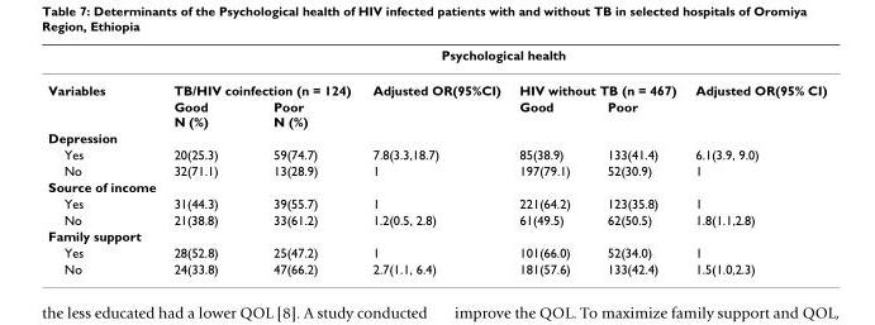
<table><thead><tr><td rowspan="3">Variables</td><td colspan="6">Psychological health</td></tr><tr><td colspan="2">TB/HIV coinfection (n = 124)</td><td rowspan="2">Adjusted OR(95%CI)</td><td colspan="2">HIV without TB (n = 467)</td><td rowspan="2">Adjusted OR(95% CI)</td></tr><tr><td>Good N (%)</td><td>Poor N (%)</td><td>Good</td><td>Poor</td></tr></thead><tbody><tr><td colspan="7">Depression</td></tr><tr><td>Yes</td><td>20(25.3)</td><td>59(74.7)</td><td>7.8(3.3,18.7)</td><td>85(38.9)</td><td>133(41.4)</td><td>6.1(3.9, 9.0)</td></tr><tr><td>No</td><td>32(71.1)</td><td>13(28.9)</td><td>1</td><td>197(79.1)</td><td>52(30.9)</td><td>1</td></tr><tr><td colspan="7">Source of income</td></tr><tr><td>Yes</td><td>31(44.3)</td><td>39(55.7)</td><td>1</td><td>221(64.2)</td><td>123(35.8)</td><td>1</td></tr><tr><td>No</td><td>21(38.8)</td><td>33(61.2)</td><td>1.2(0.5, 2.8)</td><td>61(49.5)</td><td>62(50.5)</td><td>1.8(1.1,2.8)</td></tr><tr><td colspan="7">Family support</td></tr><tr><td>Yes</td><td>28(52.8)</td><td>25(47.2)</td><td>1</td><td>101(66.0)</td><td>52(34.0)</td><td>1</td></tr><tr><td>No</td><td>24(33.8)</td><td>47(66.2)</td><td>2.7(1.1, 6.4)</td><td>181(57.6)</td><td>133(42.4)</td><td>1.5(1.0,2.3)</td></tr></tbody></table>